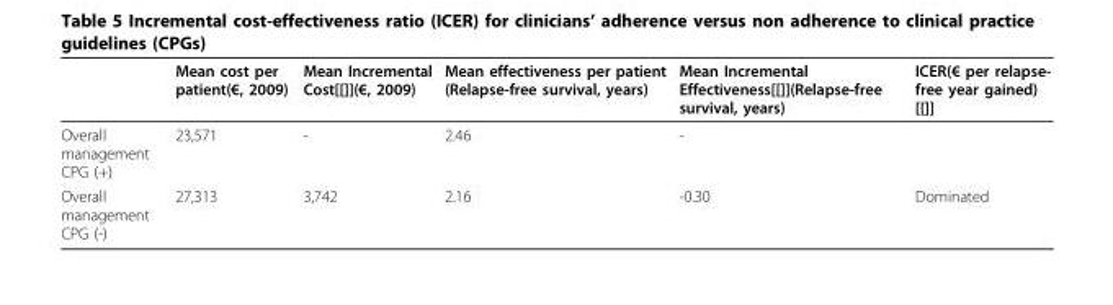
<table><thead><tr><td></td><td>Mean cost per patient(€, 2009)</td><td>Mean Incremental Cost[[]](€, 2009)</td><td>Mean effectiveness per patient (Relapse-free survival, years)</td><td>Mean Incremental Effectiveness[[]](Relapse-free survival, years)</td><td>ICER(€ per relapse- free year gained) [[]]</td></tr></thead><tbody><tr><td>Overall management CPG (+)</td><td>23,571</td><td>-</td><td>2.46</td><td>-</td><td></td></tr><tr><td>Overall management CPG (-)</td><td>27,313</td><td>3,742</td><td>2.16</td><td>-0.30</td><td>Dominated</td></tr></tbody></table>